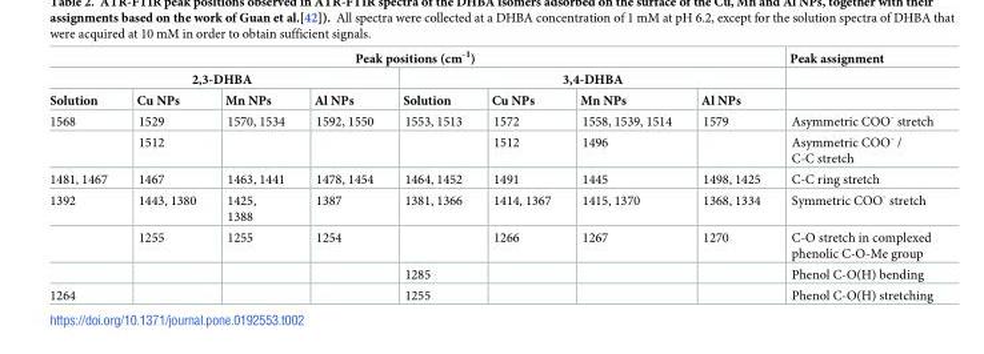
<table><thead><tr><td colspan="8">Peak positions (cm<sup>-1</sup>)</td><td rowspan="3">Peak assignment</td></tr><tr><td colspan="4">2,3-DHBA</td><td colspan="4">3,4-DHBA</td></tr><tr><td>Solution</td><td>Cu NPs</td><td>Mn NPs</td><td>Al NPs</td><td>Solution</td><td>Cu NPs</td><td>Mn NPs</td><td>Al NPs</td></tr></thead><tbody><tr><td rowspan="2">1568</td><td>1529</td><td>1570, 1534</td><td>1592, 1550</td><td>1553, 1513</td><td>1572</td><td>1558, 1539, 1514</td><td>1579</td><td>Asymmetric COO<sup>-</sup> stretch</td></tr><tr><td>1512</td><td></td><td></td><td></td><td>1512</td><td>1496</td><td></td><td>Asymmetric COO<sup>-</sup> / C-C stretch</td></tr><tr><td>1481, 1467</td><td>1467</td><td>1463, 1441</td><td>1478, 1454</td><td>1464, 1452</td><td>1491</td><td>1445</td><td>1498, 1425</td><td>C-C ring stretch</td></tr><tr><td rowspan="3">1392</td><td>1443, 1380</td><td>1425, 1388</td><td>1387</td><td>1381, 1366</td><td>1414, 1367</td><td>1415, 1370</td><td>1368, 1334</td><td>Symmetric COO<sup>-</sup> stretch</td></tr><tr><td>1255</td><td>1255</td><td>1254</td><td></td><td>1266</td><td>1267</td><td>1270</td><td>C-O stretch in complexed phenolic C-O-Me group</td></tr><tr><td></td><td></td><td></td><td>1285</td><td></td><td></td><td></td><td>Phenol C-O(H) bending</td></tr><tr><td>1264</td><td></td><td></td><td></td><td>1255</td><td></td><td></td><td></td><td>Phenol C-O(H) stretching</td></tr></tbody></table>